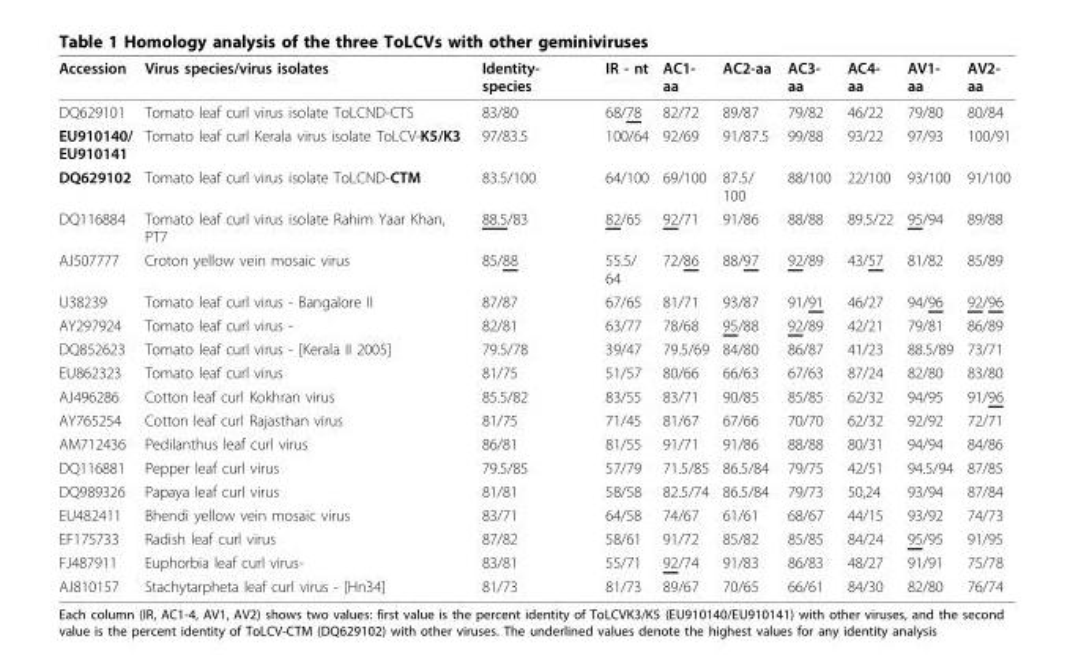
<table><thead><tr><td>Accession</td><td>Virus species/virus isolates</td><td>Identity- species</td><td>IR - nt</td><td>AC1- aa</td><td>AC2-aa</td><td>AC3- aa</td><td>AC4- aa</td><td>AV1- aa</td><td>AV2- aa</td></tr></thead><tbody><tr><td>DQ629101</td><td>Tomato leaf curl virus isolate ToLCND-CTS</td><td>83/80</td><td>68/78</td><td>82/72</td><td>89/87</td><td>79/82</td><td>46/22</td><td>79/80</td><td>80/84</td></tr><tr><td>EU910140/ EU910141</td><td>Tomato leaf curl Kerala virus isolate ToLCV-K5/K3</td><td>97/83.5</td><td>100/64</td><td>92/69</td><td>91/87.5</td><td>99/88</td><td>93/22</td><td>97/93</td><td>100/91</td></tr><tr><td>DQ629102</td><td>Tomato leaf curl virus isolate ToLCND-CTM</td><td>83.5/100</td><td>64/100</td><td>69/100</td><td>87.5/ 100</td><td>88/100</td><td>22/100</td><td>93/100</td><td>91/100</td></tr><tr><td>DQ116884</td><td>Tomato leaf curl virus isolate Rahim Yaar Khan, PT7</td><td>88.5/83</td><td>82/65</td><td>92/71</td><td>91/86</td><td>88/88</td><td>89.5/22</td><td>95/94</td><td>89/88</td></tr><tr><td>AJ507777</td><td>Croton yellow vein mosaic virus</td><td>85/88</td><td>55.5/ 64</td><td>72/86</td><td>88/97</td><td>92/89</td><td>43/57</td><td>81/82</td><td>85/89</td></tr><tr><td>U38239</td><td>Tomato leaf curl virus - Bangalore II</td><td>87/87</td><td>67/65</td><td>81/71</td><td>93/87</td><td>91/91</td><td>46/27</td><td>94/96</td><td>92/96</td></tr><tr><td>AY297924</td><td>Tomato leaf curl virus -</td><td>82/81</td><td>63/77</td><td>78/68</td><td>95/88</td><td>92/89</td><td>42/21</td><td>79/81</td><td>86/89</td></tr><tr><td>DQ852623</td><td>Tomato leaf curl virus - [Kerala II 2005]</td><td>79.5/78</td><td>39/47</td><td>79.5/69</td><td>84/80</td><td>86/87</td><td>41/23</td><td>88.5/89</td><td>73/71</td></tr><tr><td>EU862323</td><td>Tomato leaf curl virus</td><td>81/75</td><td>51/57</td><td>80/66</td><td>66/63</td><td>67/63</td><td>87/24</td><td>82/80</td><td>83/80</td></tr><tr><td>AJ496286</td><td>Cotton leaf curl Kokhran virus</td><td>85.5/82</td><td>83/55</td><td>83/71</td><td>90/85</td><td>85/85</td><td>62/32</td><td>94/95</td><td>91/96</td></tr><tr><td>AY765254</td><td>Cotton leaf curl Rajasthan virus</td><td>81/75</td><td>71/45</td><td>81/67</td><td>67/66</td><td>70/70</td><td>62/32</td><td>92/92</td><td>72/71</td></tr><tr><td>AM712436</td><td>Pedilanthus leaf curl virus</td><td>86/81</td><td>81/55</td><td>91/71</td><td>91/86</td><td>88/88</td><td>80/31</td><td>94/94</td><td>84/86</td></tr><tr><td>DQ116881</td><td>Pepper leaf curl virus</td><td>79.5/85</td><td>57/79</td><td>71.5/85</td><td>86.5/84</td><td>79/75</td><td>42/51</td><td>94.5/94</td><td>87/85</td></tr><tr><td>DQ989326</td><td>Papaya leaf curl virus</td><td>81/81</td><td>58/58</td><td>82.5/74</td><td>86.5/84</td><td>79/73</td><td>50,24</td><td>93/94</td><td>87/84</td></tr><tr><td>EU482411</td><td>Bhendi yellow vein mosaic virus</td><td>83/71</td><td>64/58</td><td>74/67</td><td>61/61</td><td>68/67</td><td>44/15</td><td>93/92</td><td>74/73</td></tr><tr><td>EF175733</td><td>Radish leaf curl virus</td><td>87/82</td><td>58/61</td><td>91/72</td><td>85/82</td><td>85/85</td><td>84/24</td><td>95/95</td><td>91/95</td></tr><tr><td>FJ487911</td><td>Euphorbia leaf curl virus-</td><td>83/81</td><td>55/71</td><td>92/74</td><td>91/83</td><td>86/83</td><td>48/27</td><td>91/91</td><td>75/78</td></tr><tr><td>AJ810157</td><td>Stachytarpheta leaf curl virus - [Hn34]</td><td>81/73</td><td>81/73</td><td>89/67</td><td>70/65</td><td>66/61</td><td>84/30</td><td>82/80</td><td>76/74</td></tr></tbody></table>